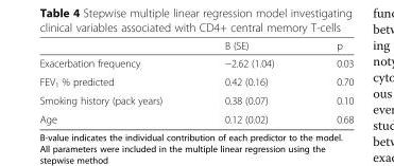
<table><thead><tr><td></td><td>B (SE)</td><td>p</td></tr></thead><tbody><tr><td>Exacerbation frequency</td><td>−2.62 (1.04)</td><td>0.03</td></tr><tr><td>FEV<sub>1</sub> % predicted</td><td>0.42 (0.16)</td><td>0.70</td></tr><tr><td>Smoking history (pack years)</td><td>0.38 (0.07)</td><td>0.10</td></tr><tr><td>Age</td><td>0.12 (0.02)</td><td>0.68</td></tr></tbody></table>